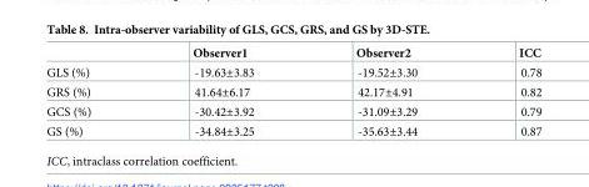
<table><thead><tr><td></td><td>Observer1</td><td>Observer2</td><td>ICC</td></tr></thead><tbody><tr><td>GLS (%)</td><td>-19.63±3.83</td><td>-19.52±3.30</td><td>0.78</td></tr><tr><td>GRS (%)</td><td>41.64±6.17</td><td>42.17±4.91</td><td>0.82</td></tr><tr><td>GCS (%)</td><td>-30.42±3.92</td><td>-31.09±3.29</td><td>0.79</td></tr><tr><td>GS (%)</td><td>-34.84±3.25</td><td>-35.63±3.44</td><td>0.87</td></tr></tbody></table>